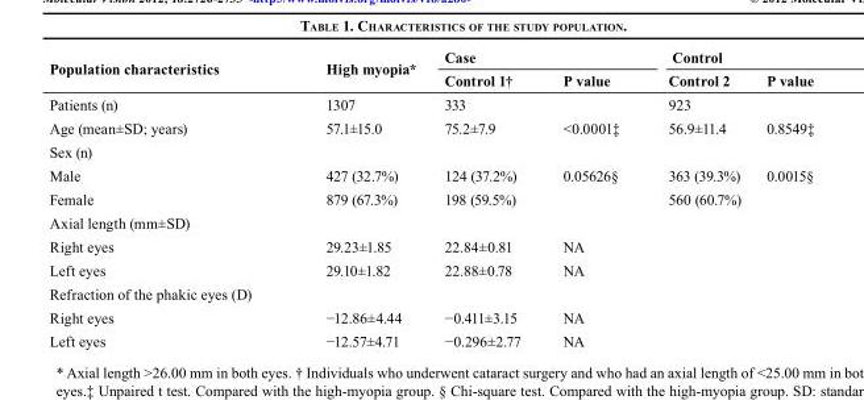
<table><thead><tr><td rowspan="2">Population characteristics</td><td rowspan="2">High myopia*</td><td colspan="2">Case</td><td colspan="2">Control</td></tr><tr><td>Control 1†</td><td>P value</td><td>Control 2</td><td>P value</td></tr></thead><tbody><tr><td>Patients (n)</td><td>1307</td><td>333</td><td></td><td>923</td><td></td></tr><tr><td>Age (mean±SD; years)</td><td>57.1±15.0</td><td>75.2±7.9</td><td>&lt;0.0001‡</td><td>56.9±11.4</td><td>0.8549‡</td></tr><tr><td colspan="6">Sex (n)</td></tr><tr><td>Male</td><td>427 (32.7%)</td><td>124 (37.2%)</td><td>0.05626§</td><td>363 (39.3%)</td><td>0.0015§</td></tr><tr><td>Female</td><td>879 (67.3%)</td><td>198 (59.5%)</td><td></td><td>560 (60.7%)</td><td></td></tr><tr><td colspan="6">Axial length (mm±SD)</td></tr><tr><td>Right eyes</td><td>29.23±1.85</td><td>22.84±0.81</td><td>NA</td><td></td><td></td></tr><tr><td>Left eyes</td><td>29.10±1.82</td><td>22.88±0.78</td><td>NA</td><td></td><td></td></tr><tr><td colspan="6">Refraction of the phakic eyes (D)</td></tr><tr><td>Right eyes</td><td>−12.86±4.44</td><td>−0.411±3.15</td><td>NA</td><td></td><td></td></tr><tr><td>Left eyes</td><td>−12.57±4.71</td><td>−0.296±2.77</td><td>NA</td><td></td><td></td></tr></tbody></table>